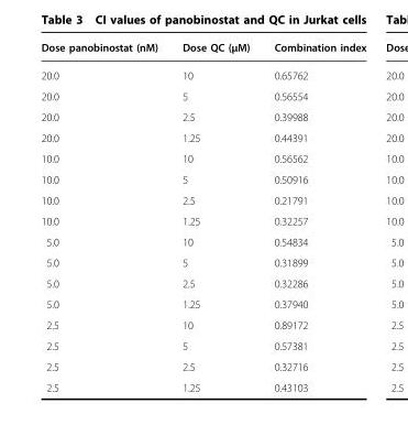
<table><thead><tr><td>Dose panobinostat (nM)</td><td>Dose QC (μM)</td><td>Combination index</td></tr></thead><tbody><tr><td>20.0</td><td>10</td><td>0.65762</td></tr><tr><td>20.0</td><td>5</td><td>0.56554</td></tr><tr><td>20.0</td><td>2.5</td><td>0.39988</td></tr><tr><td>20.0</td><td>1.25</td><td>0.44391</td></tr><tr><td>10.0</td><td>10</td><td>0.56562</td></tr><tr><td>10.0</td><td>5</td><td>0.50916</td></tr><tr><td>10.0</td><td>2.5</td><td>0.21791</td></tr><tr><td>10.0</td><td>1.25</td><td>0.32257</td></tr><tr><td>5.0</td><td>10</td><td>0.54834</td></tr><tr><td>5.0</td><td>5</td><td>0.31899</td></tr><tr><td>5.0</td><td>2.5</td><td>0.32286</td></tr><tr><td>5.0</td><td>1.25</td><td>0.37940</td></tr><tr><td>2.5</td><td>10</td><td>0.89172</td></tr><tr><td>2.5</td><td>5</td><td>0.57381</td></tr><tr><td>2.5</td><td>2.5</td><td>0.32716</td></tr><tr><td>2.5</td><td>1.25</td><td>0.43103</td></tr></tbody></table>